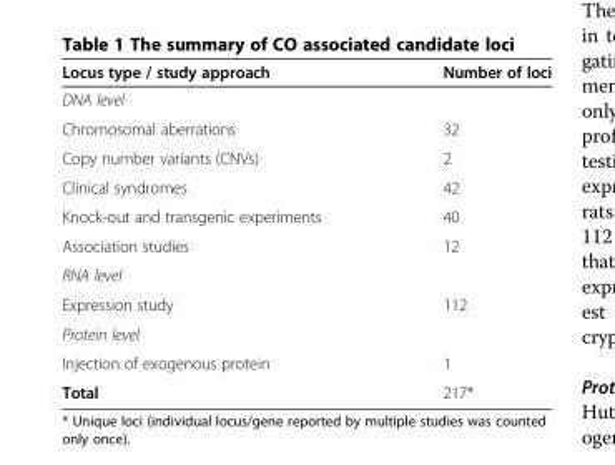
<table><thead><tr><td>Locus type / study approach</td><td>Number of loci</td></tr></thead><tbody><tr><td colspan="2">DNA level</td></tr><tr><td>Chromosomal aberrations</td><td>32</td></tr><tr><td>Copy number variants (CNVs)</td><td>2</td></tr><tr><td>Clinical syndromes</td><td>42</td></tr><tr><td>Knock-out and transgenic experiments</td><td>40</td></tr><tr><td>Association studies</td><td>12</td></tr><tr><td colspan="2">RNA level</td></tr><tr><td>Expression study</td><td>112</td></tr><tr><td colspan="2">Protein level</td></tr><tr><td>Injection of exogenous protein</td><td>1</td></tr><tr><td>Total</td><td>217*</td></tr></tbody></table>